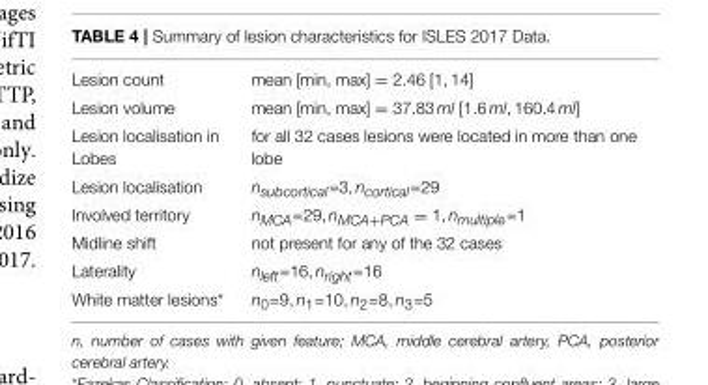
<table><tbody><tr><td>Lesion count</td><td>mean [min, max] = 2.46 [1, 14]</td></tr><tr><td>Lesion volume</td><td>mean [min, max] = 37.83 ml [1.6 ml, 160.4 ml]</td></tr><tr><td>Lesion localisation in Lobes</td><td>for all 32 cases lesions were located in more than one lobe</td></tr><tr><td>Lesion localisation</td><td>n<sub>subcortical</sub>=3, n<sub>cortical</sub>=29</td></tr><tr><td>Involved territory</td><td>n<sub>MCA</sub>=29, n<sub>MCA+PCA</sub> = 1, n<sub>multiple</sub>=1</td></tr><tr><td>Midline shift</td><td>not present for any of the 32 cases</td></tr><tr><td>Laterality</td><td>n<sub>left</sub>=16, n<sub>right</sub>=16</td></tr><tr><td>White matter lesions*</td><td>n<sub>0</sub>=9, n<sub>1</sub>=10, n<sub>2</sub>=8, n<sub>3</sub>=5</td></tr></tbody></table>